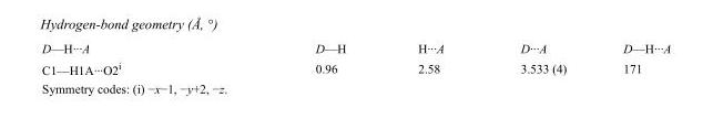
<table><tbody><tr><td>D—H···A</td><td>D—H</td><td>H···A</td><td>D···A</td><td>D—H···A</td></tr><tr><td>C1—H1A···O2<sup>i</sup></td><td>0.96</td><td>2.58</td><td>3.533 (4)</td><td>171</td></tr></tbody></table>